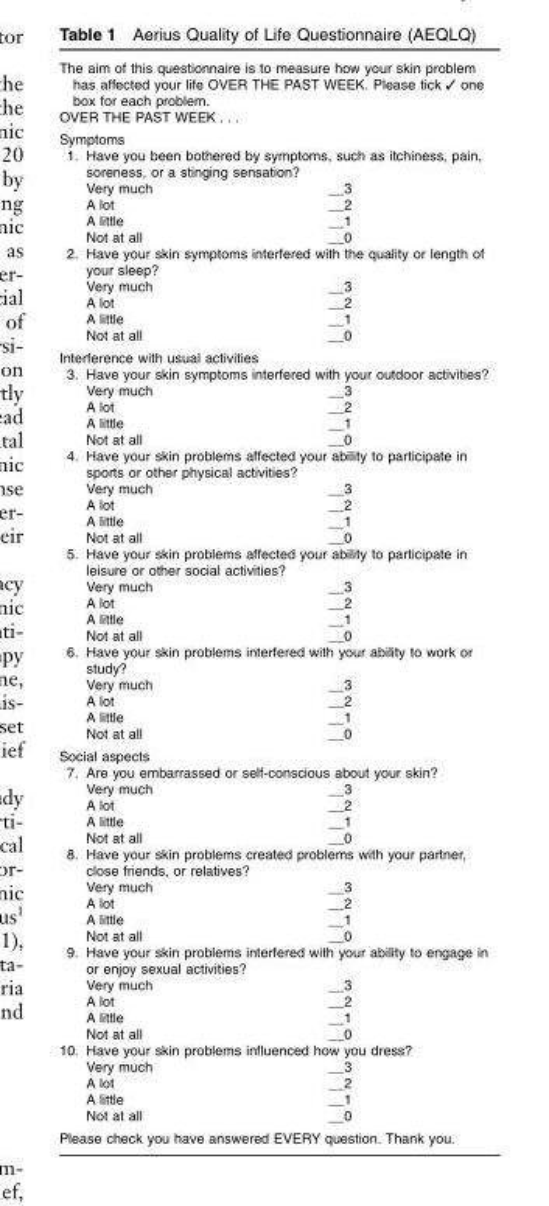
<table><tbody><tr><td colspan="2">The aim of this questionnaire is to measure how your skin problem has affected your life OVER THE PAST WEEK. Please tick ✓ one box for each problem.</td></tr><tr><td colspan="2">OVER THE PAST WEEK . . .</td></tr><tr><td colspan="2">Symptoms</td></tr><tr><td colspan="2">1. Have you been bothered by symptoms, such as itchiness, pain, soreness, or a stinging sensation?</td></tr><tr><td>Very much</td><td>__3</td></tr><tr><td>A lot</td><td>__2</td></tr><tr><td>A little</td><td>__1</td></tr><tr><td>Not at all</td><td>__0</td></tr><tr><td colspan="2">2. Have your skin symptoms interfered with the quality or length of your sleep?</td></tr><tr><td>Very much</td><td>__3</td></tr><tr><td>A lot</td><td>__2</td></tr><tr><td>A little</td><td>__1</td></tr><tr><td>Not at all</td><td>__0</td></tr><tr><td colspan="2">Interference with usual activities</td></tr><tr><td colspan="2">3. Have your skin symptoms interfered with your outdoor activities?</td></tr><tr><td>Very much</td><td>__3</td></tr><tr><td>A lot</td><td>__2</td></tr><tr><td>A little</td><td>__1</td></tr><tr><td>Not at all</td><td>__0</td></tr><tr><td colspan="2">4. Have your skin problems affected your ability to participate in sports or other physical activities?</td></tr><tr><td>Very much</td><td>__3</td></tr><tr><td>A lot</td><td>__2</td></tr><tr><td>A little</td><td>__1</td></tr><tr><td>Not at all</td><td>__0</td></tr><tr><td colspan="2">5. Have your skin problems affected your ability to participate in leisure or other social activities?</td></tr><tr><td>Very much</td><td>__3</td></tr><tr><td>A lot</td><td>__2</td></tr><tr><td>A little</td><td>__1</td></tr><tr><td>Not at all</td><td>__0</td></tr><tr><td colspan="2">6. Have your skin problems interfered with your ability to work or study?</td></tr><tr><td>Very much</td><td>__3</td></tr><tr><td>A lot</td><td>__2</td></tr><tr><td>A little</td><td>__1</td></tr><tr><td>Not at all</td><td>__0</td></tr><tr><td colspan="2">Social aspects</td></tr><tr><td colspan="2">7. Are you embarrassed or self-conscious about your skin?</td></tr><tr><td>Very much</td><td>__3</td></tr><tr><td>A lot</td><td>__2</td></tr><tr><td>A little</td><td>__1</td></tr><tr><td>Not at all</td><td>__0</td></tr><tr><td colspan="2">8. Have your skin problems created problems with your partner, close friends, or relatives?</td></tr><tr><td>Very much</td><td>__3</td></tr><tr><td>A lot</td><td>__2</td></tr><tr><td>A little</td><td>__1</td></tr><tr><td>Not at all</td><td>__0</td></tr><tr><td colspan="2">9. Have your skin problems interfered with your ability to engage in or enjoy sexual activities?</td></tr><tr><td>Very much</td><td>__3</td></tr><tr><td>A lot</td><td>__2</td></tr><tr><td>A little</td><td>__1</td></tr><tr><td>Not at all</td><td>__0</td></tr><tr><td colspan="2">10. Have your skin problems influenced how you dress?</td></tr><tr><td>Very much</td><td>__3</td></tr><tr><td>A lot</td><td>__2</td></tr><tr><td>A little</td><td>__1</td></tr><tr><td>Not at all</td><td>__0</td></tr><tr><td colspan="2">Please check you have answered EVERY question. Thank you.</td></tr></tbody></table>